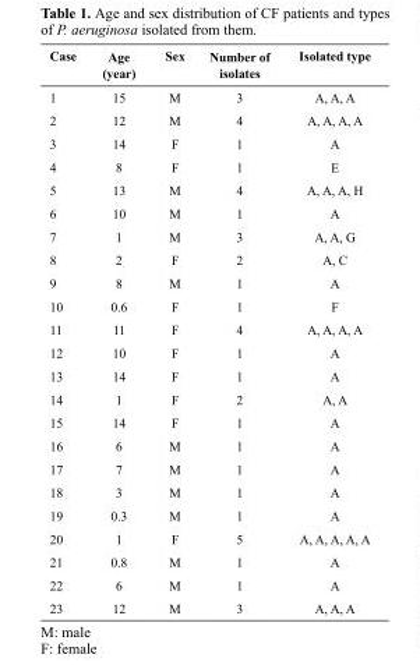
<table><thead><tr><td>Case</td><td>Age (year)</td><td>Sex</td><td>Number of isolates</td><td>Isolated type</td></tr></thead><tbody><tr><td>1</td><td>15</td><td>M</td><td>3</td><td>A, A, A</td></tr><tr><td>2</td><td>12</td><td>M</td><td>4</td><td>A, A, A, A</td></tr><tr><td>3</td><td>14</td><td>F</td><td>1</td><td>A</td></tr><tr><td>4</td><td>8</td><td>F</td><td>1</td><td>E</td></tr><tr><td>5</td><td>13</td><td>M</td><td>4</td><td>A, A, A, H</td></tr><tr><td>6</td><td>10</td><td>M</td><td>1</td><td>A</td></tr><tr><td>7</td><td>1</td><td>M</td><td>3</td><td>A, A, G</td></tr><tr><td>8</td><td>2</td><td>F</td><td>2</td><td>A, C</td></tr><tr><td>9</td><td>8</td><td>M</td><td>1</td><td>A</td></tr><tr><td>10</td><td>0.6</td><td>F</td><td>1</td><td>F</td></tr><tr><td>11</td><td>11</td><td>F</td><td>4</td><td>A, A, A, A</td></tr><tr><td>12</td><td>10</td><td>F</td><td>1</td><td>A</td></tr><tr><td>13</td><td>14</td><td>F</td><td>1</td><td>A</td></tr><tr><td>14</td><td>1</td><td>F</td><td>2</td><td>A, A</td></tr><tr><td>15</td><td>14</td><td>F</td><td>1</td><td>A</td></tr><tr><td>16</td><td>6</td><td>M</td><td>1</td><td>A</td></tr><tr><td>17</td><td>7</td><td>M</td><td>1</td><td>A</td></tr><tr><td>18</td><td>3</td><td>M</td><td>1</td><td>A</td></tr><tr><td>19</td><td>0.3</td><td>M</td><td>1</td><td>A</td></tr><tr><td>20</td><td>1</td><td>F</td><td>5</td><td>A, A, A, A, A</td></tr><tr><td>21</td><td>0.8</td><td>M</td><td>1</td><td>A</td></tr><tr><td>22</td><td>6</td><td>M</td><td>1</td><td>A</td></tr><tr><td>23</td><td>12</td><td>M</td><td>3</td><td>A, A, A</td></tr></tbody></table>